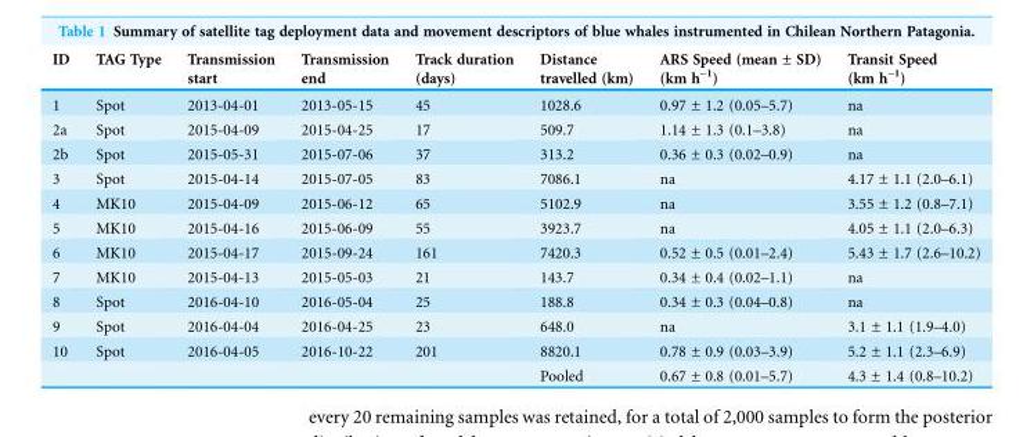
<table><thead><tr><td>ID</td><td>TAG Type</td><td>Transmission start</td><td>Transmission end</td><td>Track duration (days)</td><td>Distance travelled (km)</td><td>ARS Speed (mean ± SD) (km h<sup>-1</sup>)</td><td>Transit Speed (km h<sup>-1</sup>)</td></tr></thead><tbody><tr><td>1</td><td>Spot</td><td>2013-04-01</td><td>2013-05-15</td><td>45</td><td>1028.6</td><td>0.97 ± 1.2 (0.05–5.7)</td><td>na</td></tr><tr><td>2a</td><td>Spot</td><td>2015-04-09</td><td>2015-04-25</td><td>17</td><td>509.7</td><td>1.14 ± 1.3 (0.1–3.8)</td><td>na</td></tr><tr><td>2b</td><td>Spot</td><td>2015-05-31</td><td>2015-07-06</td><td>37</td><td>313.2</td><td>0.36 ± 0.3 (0.02–0.9)</td><td>na</td></tr><tr><td>3</td><td>Spot</td><td>2015-04-14</td><td>2015-07-05</td><td>83</td><td>7086.1</td><td>na</td><td>4.17 ± 1.1 (2.0–6.1)</td></tr><tr><td>4</td><td>MK10</td><td>2015-04-09</td><td>2015-06-12</td><td>65</td><td>5102.9</td><td>na</td><td>3.55 ± 1.2 (0.8–7.1)</td></tr><tr><td>5</td><td>MK10</td><td>2015-04-16</td><td>2015-06-09</td><td>55</td><td>3923.7</td><td>na</td><td>4.05 ± 1.1 (2.0–6.3)</td></tr><tr><td>6</td><td>MK10</td><td>2015-04-17</td><td>2015-09-24</td><td>161</td><td>7420.3</td><td>0.52 ± 0.5 (0.01–2.4)</td><td>5.43 ± 1.7 (2.6–10.2)</td></tr><tr><td>7</td><td>MK10</td><td>2015-04-13</td><td>2015-05-03</td><td>21</td><td>143.7</td><td>0.34 ± 0.4 (0.02–1.1)</td><td>na</td></tr><tr><td>8</td><td>Spot</td><td>2016-04-10</td><td>2016-05-04</td><td>25</td><td>188.8</td><td>0.34 ± 0.3 (0.04–0.8)</td><td>na</td></tr><tr><td>9</td><td>Spot</td><td>2016-04-04</td><td>2016-04-25</td><td>23</td><td>648.0</td><td>na</td><td>3.1 ± 1.1 (1.9–4.0)</td></tr><tr><td rowspan="2">10</td><td>Spot</td><td>2016-04-05</td><td>2016-10-22</td><td>201</td><td>8820.1</td><td>0.78 ± 0.9 (0.03–3.9)</td><td>5.2 ± 1.1 (2.3–6.9)</td></tr><tr><td></td><td></td><td></td><td></td><td>Pooled</td><td>0.67 ± 0.8 (0.01–5.7)</td><td>4.3 ± 1.4 (0.8–10.2)</td></tr></tbody></table>